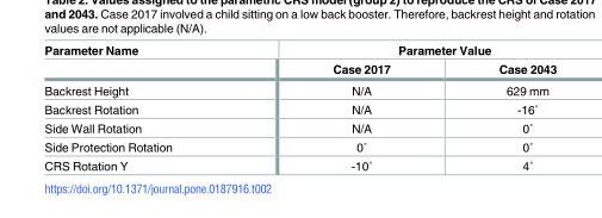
<table><thead><tr><td rowspan="2">Parameter Name</td><td colspan="2">Parameter Value</td></tr><tr><td>Case 2017</td><td>Case 2043</td></tr></thead><tbody><tr><td>Backrest Height</td><td>N/A</td><td>629 mm</td></tr><tr><td>Backrest Rotation</td><td>N/A</td><td>-16˚</td></tr><tr><td>Side Wall Rotation</td><td>N/A</td><td>0˚</td></tr><tr><td>Side Protection Rotation</td><td>0˚</td><td>0˚</td></tr><tr><td>CRS Rotation Y</td><td>-10˚</td><td>4˚</td></tr></tbody></table>